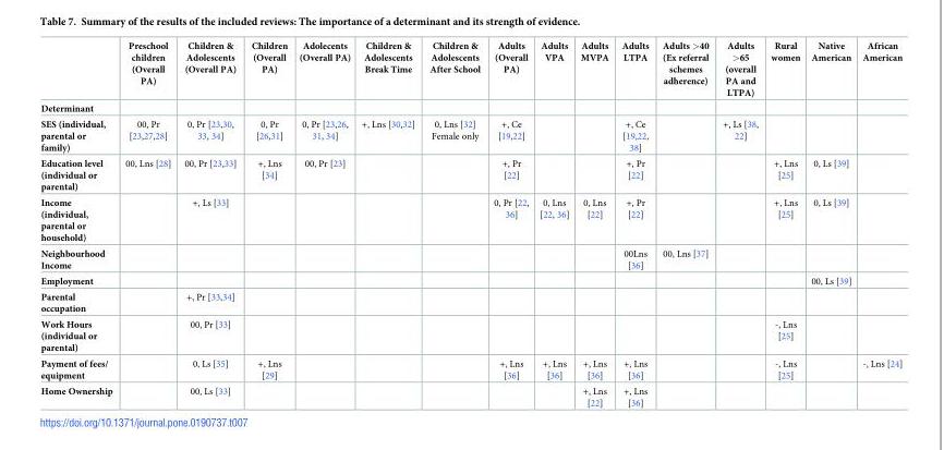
<table><thead><tr><td></td><td>Preschool children (Overall PA)</td><td>Children &amp; Adolescents (Overall PA)</td><td>Children (Overall PA)</td><td>Adolecents (Overall PA)</td><td>Children &amp; Adolescents Break Time</td><td>Children &amp; Adolescents After School</td><td>Adults (Overall PA)</td><td>Adults VPA</td><td>Adults MVPA</td><td>Adults LTPA</td><td>Adults &gt;40 (Ex referral schemes adherence)</td><td>Adults &gt;65 (overall PA and LTPA)</td><td>Rural women</td><td>Native American</td><td>African American</td></tr></thead><tbody><tr><td colspan="16">Determinant</td></tr><tr><td>SES (individual, parental or family)</td><td>00, Pr [23,27,28]</td><td>0, Pr [23,30, 33, 34]</td><td>0, Pr [26,31]</td><td>0, Pr [23,26, 31, 34]</td><td>+, Lns [30,32]</td><td>0, Lns [32] Female only</td><td>+, Ce [19,22]</td><td></td><td></td><td>+, Ce [19,22, 38]</td><td></td><td>+, Ls [38, 22]</td><td></td><td></td><td></td></tr><tr><td>Education level (individual or parental)</td><td>00, Lns [28]</td><td>00, Pr [23,33]</td><td>+, Lns [34]</td><td>00, Pr [23]</td><td></td><td></td><td>+, Pr [22]</td><td></td><td></td><td>+, Pr [22]</td><td></td><td></td><td>+, Lns [25]</td><td>0, Ls [39]</td><td></td></tr><tr><td>Income (individual, parental or household)</td><td></td><td>+, Ls [33]</td><td></td><td></td><td></td><td></td><td>0, Pr [22, 36]</td><td>0, Lns [22, 36]</td><td>0, Lns [22]</td><td>+, Pr [22]</td><td></td><td></td><td>+, Lns [25]</td><td>0, Ls [39]</td><td></td></tr><tr><td>Neighbourhood Income</td><td></td><td></td><td></td><td></td><td></td><td></td><td></td><td></td><td></td><td>00Lns [36]</td><td>00, Lns [37]</td><td></td><td></td><td></td><td></td></tr><tr><td>Employment</td><td></td><td></td><td></td><td></td><td></td><td></td><td></td><td></td><td></td><td></td><td></td><td></td><td></td><td>00, Ls [39]</td><td></td></tr><tr><td>Parental occupation</td><td></td><td>+, Pr [33,34]</td><td></td><td></td><td></td><td></td><td></td><td></td><td></td><td></td><td></td><td></td><td></td><td></td><td></td></tr><tr><td>Work Hours (individual or parental)</td><td></td><td>00, Pr [33]</td><td></td><td></td><td></td><td></td><td></td><td></td><td></td><td></td><td></td><td></td><td>-, Lns [25]</td><td></td><td></td></tr><tr><td>Payment of fees/ equipment</td><td></td><td>0, Ls [35]</td><td>+, Lns [29]</td><td></td><td></td><td></td><td>+, Lns [36]</td><td>+, Lns [36]</td><td>+, Lns [36]</td><td>+, Lns [36]</td><td></td><td></td><td>-, Lns [25]</td><td></td><td>-, Lns [24]</td></tr><tr><td>Home Ownership</td><td></td><td>00, Ls [33]</td><td></td><td></td><td></td><td></td><td></td><td></td><td>+, Lns [22]</td><td>+, Lns [36]</td><td></td><td></td><td></td><td></td><td></td></tr></tbody></table>